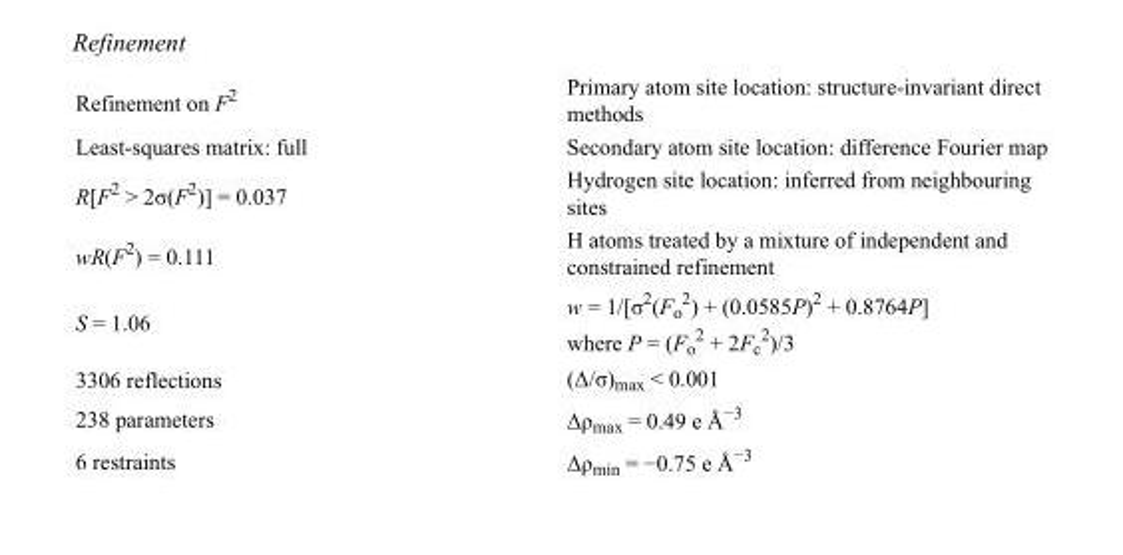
<table><tbody><tr><td>Refinement on F<sup>2</sup></td><td>Primary atom site location: structure-invariant direct methods</td></tr><tr><td>Least-squares matrix: full</td><td>Secondary atom site location: difference Fourier map</td></tr><tr><td>R[F<sup>2</sup> &gt; 2σ(F<sup>2</sup>)] = 0.037</td><td>Hydrogen site location: inferred from neighbouring sites</td></tr><tr><td>wR(F<sup>2</sup>) = 0.111</td><td>H atoms treated by a mixture of independent and constrained refinement</td></tr><tr><td>S = 1.06</td><td>w = 1/[σ<sup>2</sup>(F<sub>o</sub> <sup>2</sup>) + (0.0585P)<sup>2</sup> + 0.8764P] where P = (F<sub>o</sub> <sup>2</sup> + 2F<sub>c</sub> <sup>2</sup>)/3</td></tr><tr><td>3306 reflections</td><td>(Δ/σ)<sub>max</sub> &lt; 0.001</td></tr><tr><td>238 parameters</td><td>Δρ<sub>max</sub> = 0.49 e Å<sup>−3</sup></td></tr><tr><td>6 restraints</td><td>Δρ<sub>min</sub> = −0.75 e Å<sup>−3</sup></td></tr></tbody></table>